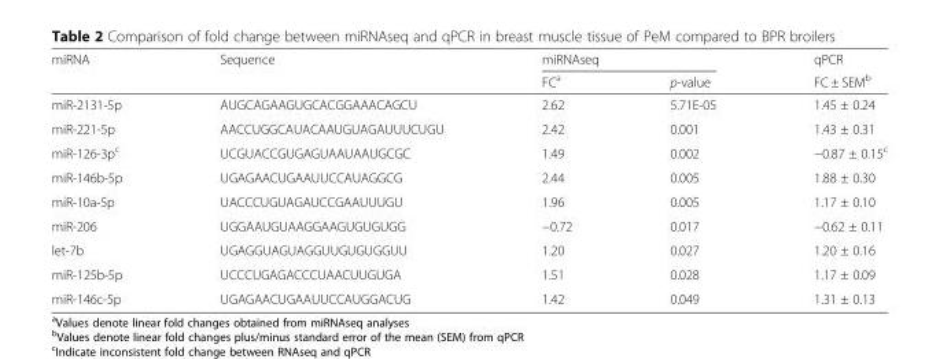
<table><thead><tr><td rowspan="2">miRNA</td><td rowspan="2">Sequence</td><td colspan="2">miRNAseq</td><td rowspan="2">qPCR FC ± SEM<sup>b</sup></td></tr><tr><td>FC<sup>a</sup></td><td>p-value</td></tr></thead><tbody><tr><td>miR-2131-5p</td><td>AUGCAGAAGUGCACGGAAACAGCU</td><td>2.62</td><td>5.71E-05</td><td>1.45 ± 0.24</td></tr><tr><td>miR-221-5p</td><td>AACCUGGCAUACAAUGUAGAUUUCUGU</td><td>2.42</td><td>0.001</td><td>1.43 ± 0.31</td></tr><tr><td>miR-126-3p<sup>c</sup></td><td>UCGUACCGUGAGUAAUAAUGCGC</td><td>1.49</td><td>0.002</td><td>−0.87 ± 0.15<sup>c</sup></td></tr><tr><td>miR-146b-5p</td><td>UGAGAACUGAAUUCCAUAGGCG</td><td>2.44</td><td>0.005</td><td>1.88 ± 0.30</td></tr><tr><td>miR-10a-5p</td><td>UACCCUGUAGAUCCGAAUUUGU</td><td>1.96</td><td>0.005</td><td>1.17 ± 0.10</td></tr><tr><td>miR-206</td><td>UGGAAUGUAAGGAAGUGUGUGG</td><td>−0.72</td><td>0.017</td><td>−0.62 ± 0.11</td></tr><tr><td>let-7b</td><td>UGAGGUAGUAGGUUGUGUGGUU</td><td>1.20</td><td>0.027</td><td>1.20 ± 0.16</td></tr><tr><td>miR-125b-5p</td><td>UCCCUGAGACCCUAACUUGUGA</td><td>1.51</td><td>0.028</td><td>1.17 ± 0.09</td></tr><tr><td>miR-146c-5p</td><td>UGAGAACUGAAUUCCAUGGACUG</td><td>1.42</td><td>0.049</td><td>1.31 ± 0.13</td></tr></tbody></table>